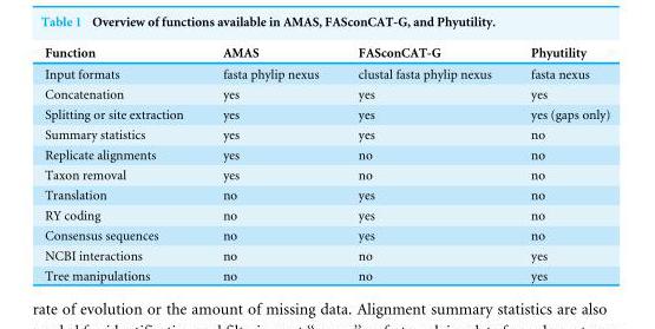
<table><thead><tr><td>Function</td><td>AMAS</td><td>FASconCAT-G</td><td>Phyutility</td></tr></thead><tbody><tr><td>Input formats</td><td>fasta phylip nexus</td><td>clustal fasta phylip nexus</td><td>fasta nexus</td></tr><tr><td>Concatenation</td><td>yes</td><td>yes</td><td>yes</td></tr><tr><td>Splitting or site extraction</td><td>yes</td><td>yes</td><td>yes (gaps only)</td></tr><tr><td>Summary statistics</td><td>yes</td><td>yes</td><td>no</td></tr><tr><td>Replicate alignments</td><td>yes</td><td>no</td><td>no</td></tr><tr><td>Taxon removal</td><td>yes</td><td>no</td><td>no</td></tr><tr><td>Translation</td><td>no</td><td>yes</td><td>no</td></tr><tr><td>RY coding</td><td>no</td><td>yes</td><td>no</td></tr><tr><td>Consensus sequences</td><td>no</td><td>yes</td><td>no</td></tr><tr><td>NCBI interactions</td><td>no</td><td>no</td><td>yes</td></tr><tr><td>Tree manipulations</td><td>no</td><td>no</td><td>yes</td></tr></tbody></table>